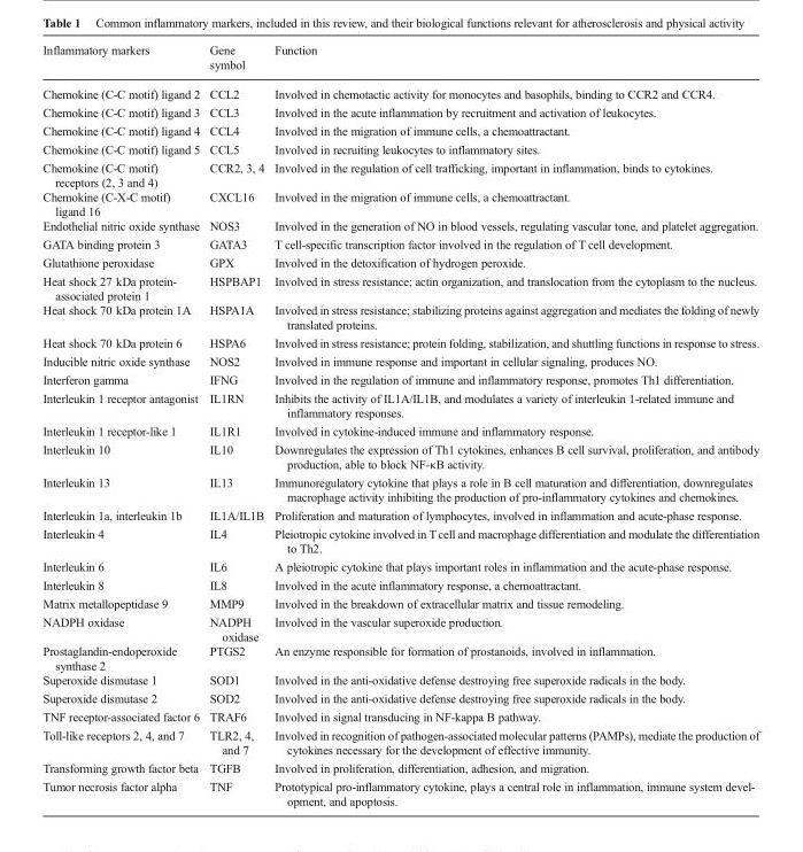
<table><thead><tr><td>Inflammatory markers</td><td>Gene symbol</td><td>Function</td></tr></thead><tbody><tr><td>Chemokine (C-C motif) ligand 2</td><td>CCL2</td><td>Involved in chemotactic activity for monocytes and basophils, binding to CCR2 and CCR4.</td></tr><tr><td>Chemokine (C-C motif) ligand 3</td><td>CCL3</td><td>Involved in the acute inflammation by recruitment and activation of leukocytes.</td></tr><tr><td>Chemokine (C-C motif) ligand 4</td><td>CCL4</td><td>Involved in the migration of immune cells, a chemoattractant.</td></tr><tr><td>Chemokine (C-C motif) ligand 5</td><td>CCL5</td><td>Involved in recruiting leukocytes to inflammatory sites.</td></tr><tr><td>Chemokine (C-C motif) receptors (2, 3 and 4)</td><td>CCR2, 3, 4</td><td>Involved in the regulation of cell trafficking, important in inflammation, binds to cytokines.</td></tr><tr><td>Chemokine (C-X-C motif) ligand 16</td><td>CXCL16</td><td>Involved in the migration of immune cells, a chemoattractant.</td></tr><tr><td>Endothelial nitric oxide synthase</td><td>NOS3</td><td>Involved in the generation of NO in blood vessels, regulating vascular tone, and platelet aggregation.</td></tr><tr><td>GATA binding protein 3</td><td>GATA3</td><td>T cell-specific transcription factor involved in the regulation of T cell development.</td></tr><tr><td>Glutathione peroxidase</td><td>GPX</td><td>Involved in the detoxification of hydrogen peroxide.</td></tr><tr><td>Heat shock 27 kDa protein- associated protein 1</td><td>HSPBAP1</td><td>Involved in stress resistance; actin organization, and translocation from the cytoplasm to the nucleus.</td></tr><tr><td>Heat shock 70 kDa protein 1A</td><td>HSPA1A</td><td>Involved in stress resistance; stabilizing proteins against aggregation and mediates the folding of newly translated proteins.</td></tr><tr><td>Heat shock 70 kDa protein 6</td><td>HSPA6</td><td>Involved in stress resistance; protein folding, stabilization, and shuttling functions in response to stress.</td></tr><tr><td>Inducible nitric oxide synthase</td><td>NOS2</td><td>Involved in immune response and important in cellular signaling, produces NO.</td></tr><tr><td>Interferon gamma</td><td>IFNG</td><td>Involved in the regulation of immune and inflammatory response, promotes Th1 differentiation.</td></tr><tr><td>Interleukin 1 receptor antagonist</td><td>IL1RN</td><td>Inhibits the activity of IL1A/IL1B, and modulates a variety of interleukin 1-related immune and inflammatory responses.</td></tr><tr><td>Interleukin 1 receptor-like 1</td><td>IL1R1</td><td>Involved in cytokine-induced immune and inflammatory response.</td></tr><tr><td>Interleukin 10</td><td>IL10</td><td>Downregulates the expression of Th1 cytokines, enhances B cell survival, proliferation, and antibody production, able to block NF-κB activity.</td></tr><tr><td>Interleukin 13</td><td>IL13</td><td>Immunoregulatory cytokine that plays a role in B cell maturation and differentiation, downregulates macrophage activity inhibiting the production of pro-inflammatory cytokines and chemokines.</td></tr><tr><td>Interleukin 1a, interleukin 1b</td><td>IL1A/IL1B</td><td>Proliferation and maturation of lymphocytes, involved in inflammation and acute-phase response.</td></tr><tr><td>Interleukin 4</td><td>IL4</td><td>Pleiotropic cytokine involved in Tcell and macrophage differentiation and modulate the differentiation to Th2.</td></tr><tr><td>Interleukin 6</td><td>IL6</td><td>A pleiotropic cytokine that plays important roles in inflammation and the acute-phase response.</td></tr><tr><td>Interleukin 8</td><td>IL8</td><td>Involved in the acute inflammatory response, a chemoattractant.</td></tr><tr><td>Matrix metallopeptidase 9</td><td>MMP9</td><td>Involved in the breakdown of extracellular matrix and tissue remodeling.</td></tr><tr><td>NADPH oxidase</td><td>NADPH oxidase</td><td>Involved in the vascular superoxide production.</td></tr><tr><td>Prostaglandin-endoperoxide synthase 2</td><td>PTGS2</td><td>An enzyme responsible for formation of prostanoids, involved in inflammation.</td></tr><tr><td>Superoxide dismutase 1</td><td>SOD1</td><td>Involved in the anti-oxidative defense destroying free superoxide radicals in the body.</td></tr><tr><td>Superoxide dismutase 2</td><td>SOD2</td><td>Involved in the anti-oxidative defense destroying free superoxide radicals in the body.</td></tr><tr><td>TNF receptor-associated factor 6</td><td>TRAF6</td><td>Involved in signal transducing in NF-kappa B pathway.</td></tr><tr><td>Toll-like receptors 2, 4, and 7</td><td>TLR2, 4, and 7</td><td>Involved in recognition of pathogen-associated molecular patterns (PAMPs), mediate the production of cytokines necessary for the development of effective immunity.</td></tr><tr><td>Transforming growth factor beta</td><td>TGFB</td><td>Involved in proliferation, differentiation, adhesion, and migration.</td></tr><tr><td>Tumor necrosis factor alpha</td><td>TNF</td><td>Prototypical pro-inflammatory cytokine, plays a central role in inflammation, immune system devel- opment, and apoptosis.</td></tr></tbody></table>